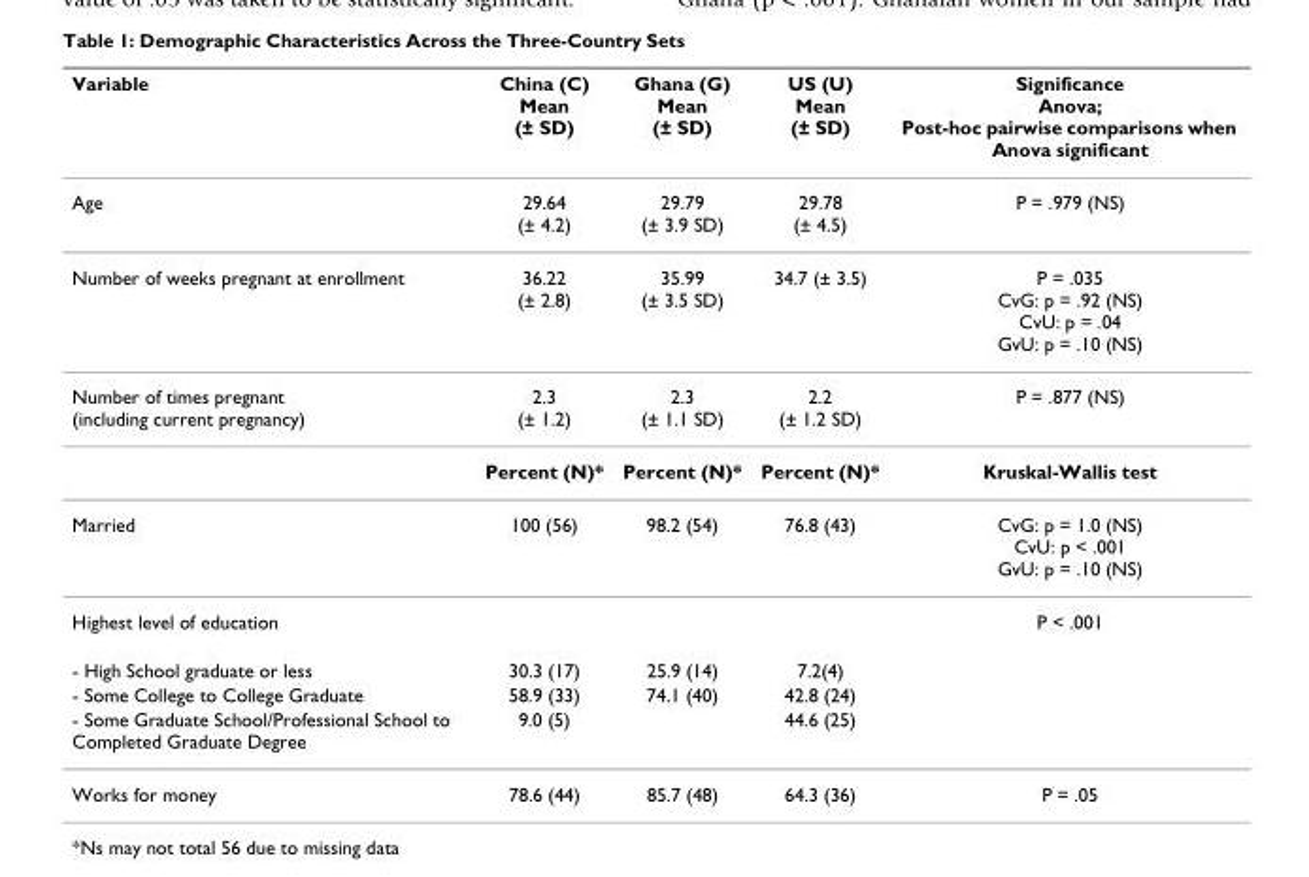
<table><thead><tr><td>Variable</td><td>China (C) Mean (± SD)</td><td>Ghana (G) Mean (± SD)</td><td>US (U) Mean (± SD)</td><td>Significance Anova; Post-hoc pairwise comparisons when Anova significant</td></tr></thead><tbody><tr><td>Age</td><td>29.64 (± 4.2)</td><td>29.79 (± 3.9 SD)</td><td>29.78 (± 4.5)</td><td>P = .979 (NS)</td></tr><tr><td>Number of weeks pregnant at enrollment</td><td>36.22 (± 2.8)</td><td>35.99 (± 3.5 SD)</td><td>34.7 (± 3.5)</td><td>P = .035 CvG: p = .92 (NS) CvU: p = .04 GvU: p = .10 (NS)</td></tr><tr><td rowspan="2">Number of times pregnant (including current pregnancy)</td><td>2.3 (± 1.2)</td><td>2.3 (± 1.1 SD)</td><td>2.2 (± 1.2 SD)</td><td>P = .877 (NS)</td></tr><tr><td>Percent (N)*</td><td>Percent (N)*</td><td>Percent (N)*</td><td>Kruskal-Wallis test</td></tr><tr><td>Married</td><td>100 (56)</td><td>98.2 (54)</td><td>76.8 (43)</td><td>CvG: p = 1.0 (NS) CvU: p &lt; .001 GvU: p = .10 (NS)</td></tr><tr><td>Highest level of education</td><td></td><td></td><td></td><td>P &lt; .001</td></tr><tr><td>- High School graduate or less</td><td>30.3 (17)</td><td>25.9 (14)</td><td>7.2(4)</td><td></td></tr><tr><td>- Some College to College Graduate</td><td>58.9 (33)</td><td>74.1 (40)</td><td>42.8 (24)</td><td></td></tr><tr><td>- Some Graduate School/Professional School to Completed Graduate Degree</td><td>9.0 (5)</td><td></td><td>44.6 (25)</td><td></td></tr><tr><td>Works for money</td><td>78.6 (44)</td><td>85.7 (48)</td><td>64.3 (36)</td><td>P = .05</td></tr></tbody></table>